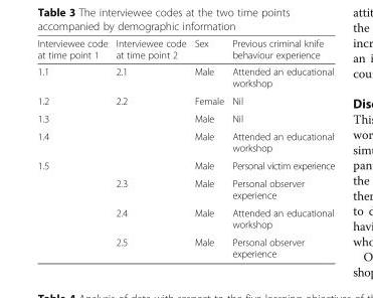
<table><thead><tr><td>Interviewee code at time point 1</td><td>Interviewee code at time point 2</td><td>Sex</td><td>Previous criminal knife behaviour experience</td></tr></thead><tbody><tr><td>1.1</td><td>2.1</td><td>Male</td><td>Attended an educational workshop</td></tr><tr><td>1.2</td><td>2.2</td><td>Female</td><td>Nil</td></tr><tr><td>1.3</td><td></td><td>Male</td><td>Nil</td></tr><tr><td>1.4</td><td></td><td>Male</td><td>Attended an educational workshop</td></tr><tr><td rowspan="4">1.5</td><td></td><td>Male</td><td>Personal victim experience</td></tr><tr><td>2.3</td><td>Male</td><td>Personal observer experience</td></tr><tr><td>2.4</td><td>Male</td><td>Attended an educational workshop</td></tr><tr><td>2.5</td><td>Male</td><td>Personal observer experience</td></tr></tbody></table>